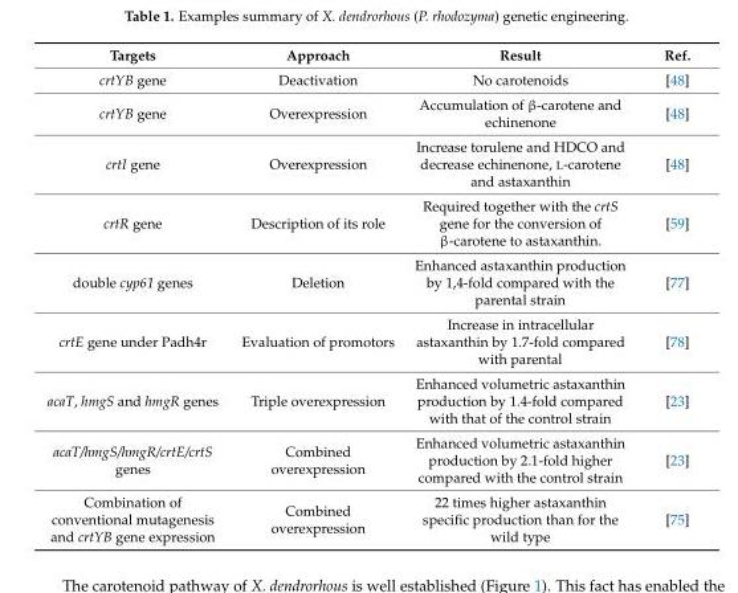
<table><thead><tr><td>Targets</td><td>Approach</td><td>Result</td><td>Ref.</td></tr></thead><tbody><tr><td>crtYB gene</td><td>Deactivation</td><td>No carotenoids</td><td>[48]</td></tr><tr><td>crtYB gene</td><td>Overexpression</td><td>Accumulation of β-carotene and echinenone</td><td>[48]</td></tr><tr><td>crtI gene</td><td>Overexpression</td><td>Increase torulene and HDCO and decrease echinenone, L-carotene and astaxanthin</td><td>[48]</td></tr><tr><td>crtR gene</td><td>Description of its role</td><td>Required together with the crtS gene for the conversion of β-carotene to astaxanthin.</td><td>[59]</td></tr><tr><td>double cyp61 genes</td><td>Deletion</td><td>Enhanced astaxanthin production by 1,4-fold compared with the parental strain</td><td>[77]</td></tr><tr><td>crtE gene under Padh4r</td><td>Evaluation of promotors</td><td>Increase in intracellular astaxanthin by 1.7-fold compared with parental</td><td>[78]</td></tr><tr><td>acaT, hmgS and hmgR genes</td><td>Triple overexpression</td><td>Enhanced volumetric astaxanthin production by 1.4-fold compared with that of the control strain</td><td>[23]</td></tr><tr><td>acaT/hmgS/hmgR/crtE/crtS genes</td><td>Combined overexpression</td><td>Enhanced volumetric astaxanthin production by 2.1-fold higher compared with the control strain</td><td>[23]</td></tr><tr><td>Combination of conventional mutagenesis and crtYB gene expression</td><td>Combined overexpression</td><td>22 times higher astaxanthin specific production than for the wild type</td><td>[75]</td></tr></tbody></table>